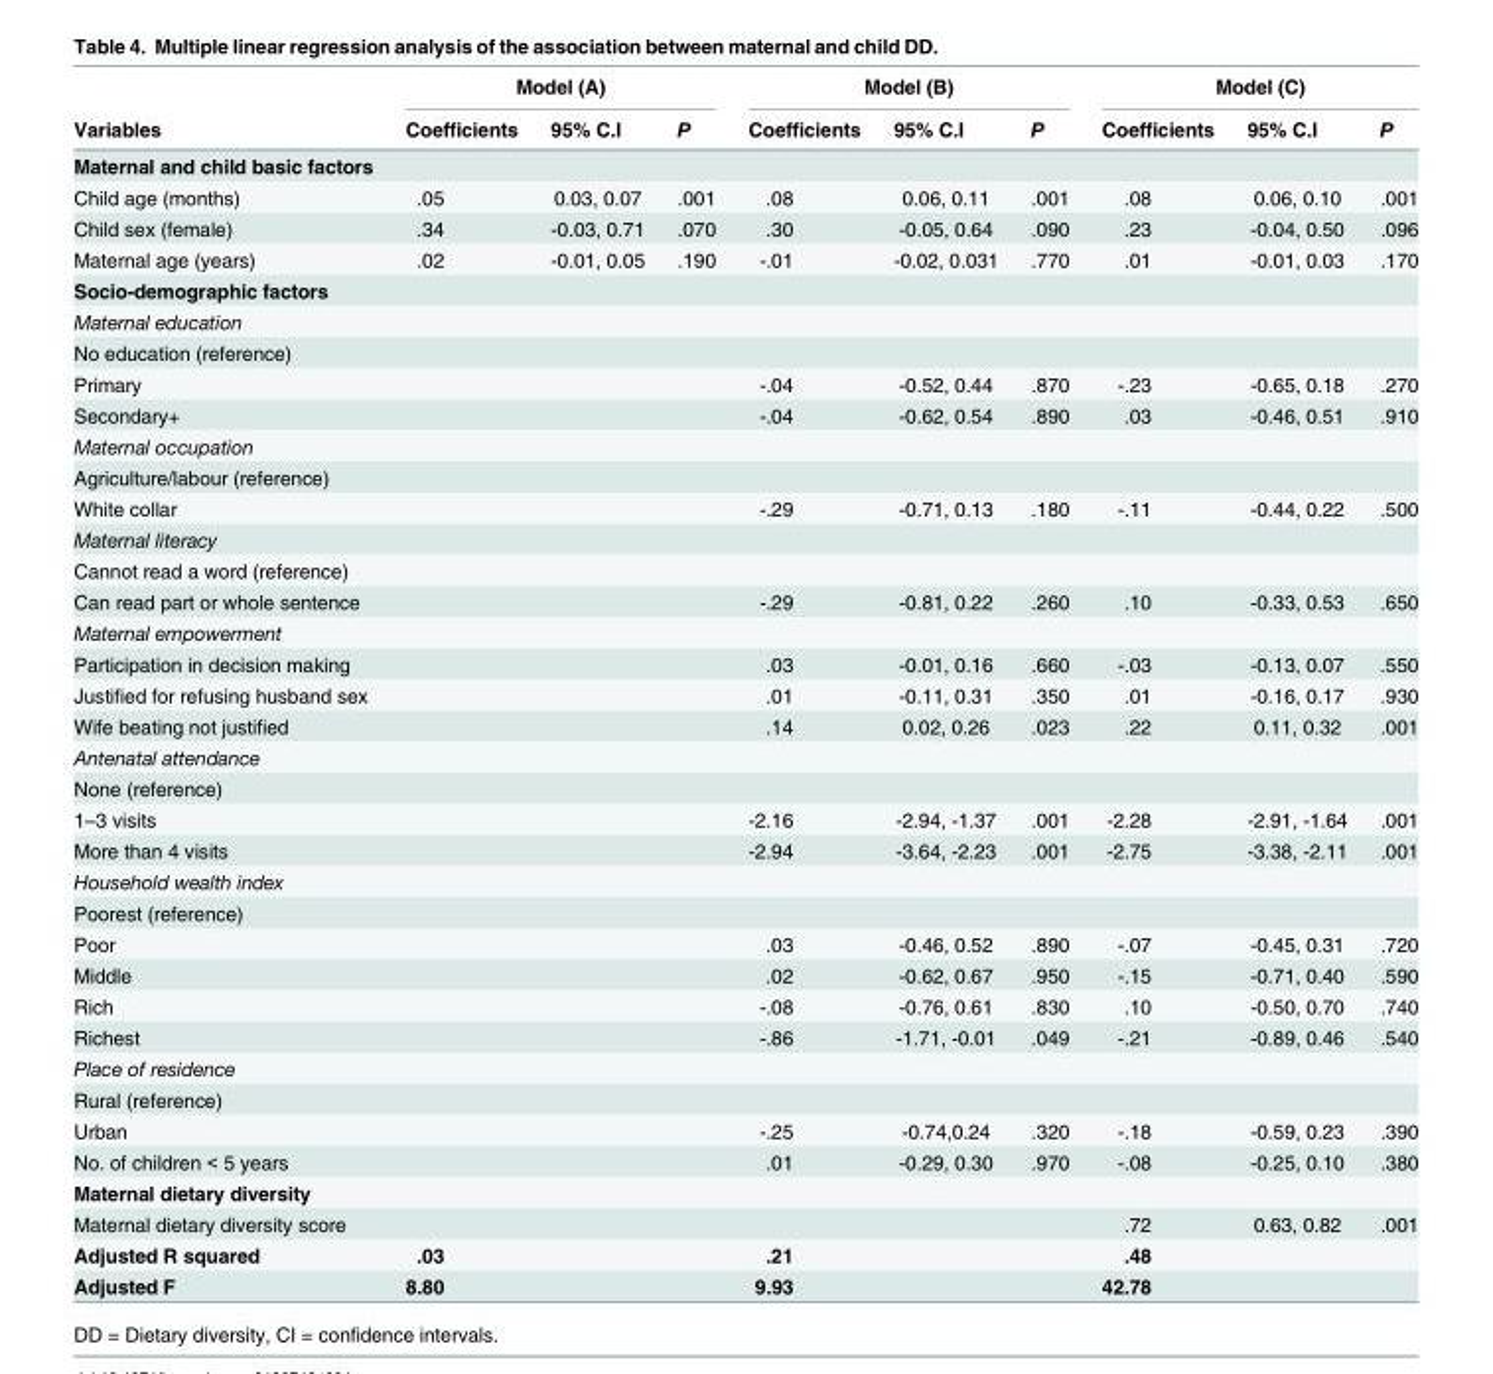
<table><thead><tr><td rowspan="2">Variables</td><td colspan="3">Model (A)</td><td colspan="3">Model (B)</td><td colspan="3">Model (C)</td></tr><tr><td>Coefficients</td><td>95% C.I</td><td>P</td><td>Coefficients</td><td>95% C.I</td><td>P</td><td>Coefficients</td><td>95% C.I</td><td>P</td></tr></thead><tbody><tr><td colspan="10">Maternal and child basic factors</td></tr><tr><td>Child age (months)</td><td>.05</td><td>0.03, 0.07</td><td>.001</td><td>.08</td><td>0.06, 0.11</td><td>.001</td><td>.08</td><td>0.06, 0.10</td><td>.001</td></tr><tr><td>Child sex (female)</td><td>.34</td><td>-0.03, 0.71</td><td>.070</td><td>.30</td><td>-0.05, 0.64</td><td>.090</td><td>.23</td><td>-0.04, 0.50</td><td>.096</td></tr><tr><td>Maternal age (years)</td><td>.02</td><td>-0.01, 0.05</td><td>.190</td><td>-.01</td><td>-0.02, 0.031</td><td>.770</td><td>.01</td><td>-0.01, 0.03</td><td>.170</td></tr><tr><td colspan="10">Socio-demographic factors</td></tr><tr><td colspan="10">Maternal education</td></tr><tr><td colspan="10">No education (reference)</td></tr><tr><td>Primary</td><td></td><td></td><td></td><td>-.04</td><td>-0.52, 0.44</td><td>.870</td><td>-.23</td><td>-0.65, 0.18</td><td>.270</td></tr><tr><td>Secondary+</td><td></td><td></td><td></td><td>-.04</td><td>-0.62, 0.54</td><td>.890</td><td>.03</td><td>-0.46, 0.51</td><td>.910</td></tr><tr><td colspan="10">Maternal occupation</td></tr><tr><td colspan="10">Agriculture/labour (reference)</td></tr><tr><td>White collar</td><td></td><td></td><td></td><td>-.29</td><td>-0.71, 0.13</td><td>.180</td><td>-.11</td><td>-0.44, 0.22</td><td>.500</td></tr><tr><td colspan="10">Maternal literacy</td></tr><tr><td colspan="10">Cannot read a word (reference)</td></tr><tr><td>Can read part or whole sentence</td><td></td><td></td><td></td><td>-.29</td><td>-0.81, 0.22</td><td>.260</td><td>.10</td><td>-0.33, 0.53</td><td>.650</td></tr><tr><td colspan="10">Maternal empowerment</td></tr><tr><td>Participation in decision making</td><td></td><td></td><td></td><td>.03</td><td>-0.01, 0.16</td><td>.660</td><td>-.03</td><td>-0.13, 0.07</td><td>.550</td></tr><tr><td>Justified for refusing husband sex</td><td></td><td></td><td></td><td>.01</td><td>-0.11, 0.31</td><td>.350</td><td>.01</td><td>-0.16, 0.17</td><td>.930</td></tr><tr><td>Wife beating not justified</td><td></td><td></td><td></td><td>.14</td><td>0.02, 0.26</td><td>.023</td><td>.22</td><td>0.11, 0.32</td><td>.001</td></tr><tr><td colspan="10">Antenatal attendance</td></tr><tr><td colspan="10">None (reference)</td></tr><tr><td>1–3 visits</td><td></td><td></td><td></td><td>-2.16</td><td>-2.94, -1.37</td><td>.001</td><td>-2.28</td><td>-2.91, -1.64</td><td>.001</td></tr><tr><td>More than 4 visits</td><td></td><td></td><td></td><td>-2.94</td><td>-3.64, -2.23</td><td>.001</td><td>-2.75</td><td>-3.38, -2.11</td><td>.001</td></tr><tr><td colspan="10">Household wealth index</td></tr><tr><td colspan="10">Poorest (reference)</td></tr><tr><td>Poor</td><td></td><td></td><td></td><td>.03</td><td>-0.46, 0.52</td><td>.890</td><td>-.07</td><td>-0.45, 0.31</td><td>.720</td></tr><tr><td>Middle</td><td></td><td></td><td></td><td>.02</td><td>-0.62, 0.67</td><td>.950</td><td>-.15</td><td>-0.71, 0.40</td><td>.590</td></tr><tr><td>Rich</td><td></td><td></td><td></td><td>-.08</td><td>-0.76, 0.61</td><td>.830</td><td>.10</td><td>-0.50, 0.70</td><td>.740</td></tr><tr><td>Richest</td><td></td><td></td><td></td><td>-.86</td><td>-1.71, -0.01</td><td>.049</td><td>-.21</td><td>-0.89, 0.46</td><td>.540</td></tr><tr><td colspan="10">Place of residence</td></tr><tr><td colspan="10">Rural (reference)</td></tr><tr><td>Urban</td><td></td><td></td><td></td><td>-.25</td><td>-0.74,0.24</td><td>.320</td><td>-.18</td><td>-0.59, 0.23</td><td>.390</td></tr><tr><td>No. of children &lt; 5 years</td><td></td><td></td><td></td><td>.01</td><td>-0.29, 0.30</td><td>.970</td><td>-.08</td><td>-0.25, 0.10</td><td>.380</td></tr><tr><td colspan="10">Maternal dietary diversity</td></tr><tr><td>Maternal dietary diversity score</td><td></td><td></td><td></td><td></td><td></td><td></td><td>.72</td><td>0.63, 0.82</td><td>.001</td></tr><tr><td>Adjusted R squared</td><td>.03</td><td></td><td></td><td>.21</td><td></td><td></td><td>.48</td><td></td><td></td></tr><tr><td>Adjusted F</td><td>8.80</td><td></td><td></td><td>9.93</td><td></td><td></td><td>42.78</td><td></td><td></td></tr></tbody></table>